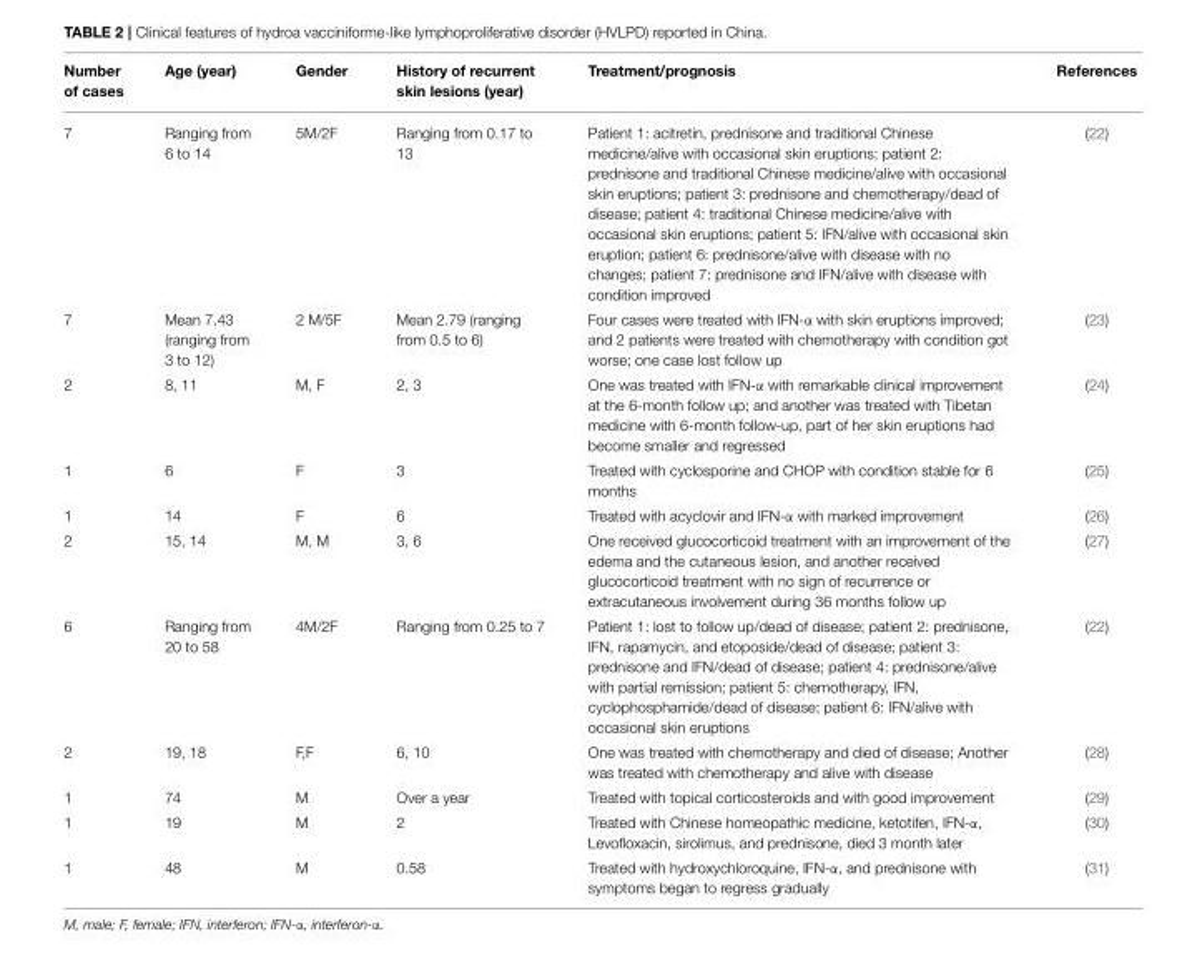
<table><thead><tr><td>Number of cases</td><td>Age (year)</td><td>Gender</td><td>History of recurrent skin lesions (year)</td><td>Treatment/prognosis</td><td>References</td></tr></thead><tbody><tr><td>7</td><td>Ranging from 6 to 14</td><td>5M/2F</td><td>Ranging from 0.17 to 13</td><td>Patient 1: acitretin, prednisone and traditional Chinese medicine/alive with occasional skin eruptions; patient 2: prednisone and traditional Chinese medicine/alive with occasional skin eruptions; patient 3: prednisone and chemotherapy/dead of disease; patient 4: traditional Chinese medicine/alive with occasional skin eruptions; patient 5: IFN/alive with occasional skin eruption; patient 6: prednisone/alive with disease with no changes; patient 7: prednisone and IFN/alive with disease with condition improved</td><td>(22)</td></tr><tr><td>7</td><td>Mean 7.43 (ranging from 3 to 12)</td><td>2 M/5F</td><td>Mean 2.79 (ranging from 0.5 to 6)</td><td>Four cases were treated with IFN-α with skin eruptions improved; and 2 patients were treated with chemotherapy with condition got worse; one case lost follow up</td><td>(23)</td></tr><tr><td>2</td><td>8, 11</td><td>M, F</td><td>2, 3</td><td>One was treated with IFN-α with remarkable clinical improvement at the 6-month follow up; and another was treated with Tibetan medicine with 6-month follow-up, part of her skin eruptions had become smaller and regressed</td><td>(24)</td></tr><tr><td>1</td><td>6</td><td>F</td><td>3</td><td>Treated with cyclosporine and CHOP with condition stable for 6 months</td><td>(25)</td></tr><tr><td>1</td><td>14</td><td>F</td><td>6</td><td>Treated with acyclovir and IFN-α with marked improvement</td><td>(26)</td></tr><tr><td>2</td><td>15, 14</td><td>M, M</td><td>3, 6</td><td>One received glucocorticoid treatment with an improvement of the edema and the cutaneous lesion, and another received glucocorticoid treatment with no sign of recurrence or extracutaneous involvement during 36 months follow up</td><td>(27)</td></tr><tr><td>6</td><td>Ranging from 20 to 58</td><td>4M/2F</td><td>Ranging from 0.25 to 7</td><td>Patient 1: lost to follow up/dead of disease; patient 2: prednisone, IFN, rapamycin, and etoposide/dead of disease; patient 3: prednisone and IFN/dead of disease; patient 4: prednisone/alive with partial remission; patient 5: chemotherapy, IFN, cyclophosphamide/dead of disease; patient 6: IFN/alive with occasional skin eruptions</td><td>(22)</td></tr><tr><td>2</td><td>19, 18</td><td>F,F</td><td>6, 10</td><td>One was treated with chemotherapy and died of disease; Another was treated with chemotherapy and alive with disease</td><td>(28)</td></tr><tr><td>1</td><td>74</td><td>M</td><td>Over a year</td><td>Treated with topical corticosteroids and with good improvement</td><td>(29)</td></tr><tr><td>1</td><td>19</td><td>M</td><td>2</td><td>Treated with Chinese homeopathic medicine, ketotifen, IFN-α, Levofloxacin, sirolimus, and prednisone, died 3 month later</td><td>(30)</td></tr><tr><td>1</td><td>48</td><td>M</td><td>0.58</td><td>Treated with hydroxychloroquine, IFN-α, and prednisone with symptoms began to regress gradually</td><td>(31)</td></tr></tbody></table>